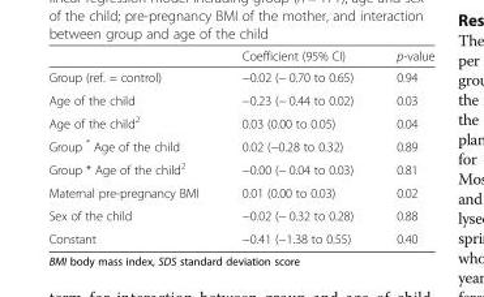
<table><thead><tr><td></td><td>Coefficient (95% CI)</td><td>p-value</td></tr></thead><tbody><tr><td>Group (ref. = control)</td><td>−0.02 (− 0.70 to 0.65)</td><td>0.94</td></tr><tr><td>Age of the child</td><td>−0.23 (− 0.44 to 0.02)</td><td>0.03</td></tr><tr><td>Age of the child<sup>2</sup></td><td>0.03 (0.00 to 0.05)</td><td>0.04</td></tr><tr><td>Group * Age of the child</td><td>0.02 (−0.28 to 0.32)</td><td>0.89</td></tr><tr><td>Group * Age of the child<sup>2</sup></td><td>−0.00 (− 0.04 to 0.03)</td><td>0.81</td></tr><tr><td>Maternal pre-pregnancy BMI</td><td>0.01 (0.00 to 0.03)</td><td>0.02</td></tr><tr><td>Sex of the child</td><td>−0.02 (− 0.32 to 0.28)</td><td>0.88</td></tr><tr><td>Constant</td><td>−0.41 (−1.38 to 0.55)</td><td>0.40</td></tr></tbody></table>